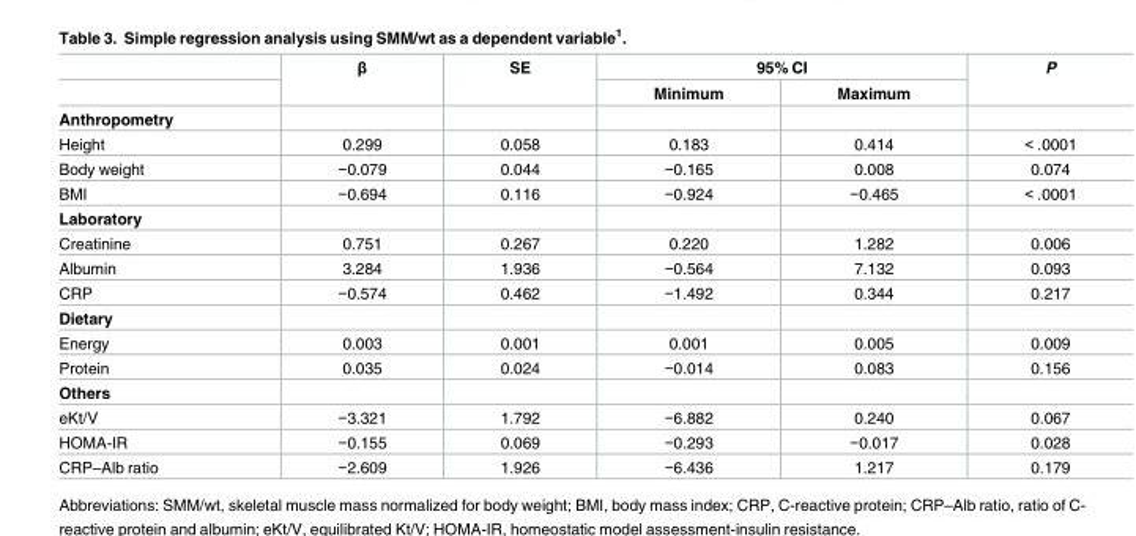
<table><thead><tr><td rowspan="2"></td><td rowspan="2">β</td><td rowspan="2">SE</td><td colspan="2">95% CI</td><td rowspan="2">P</td></tr><tr><td>Minimum</td><td>Maximum</td></tr></thead><tbody><tr><td colspan="6">Anthropometry</td></tr><tr><td>Height</td><td>0.299</td><td>0.058</td><td>0.183</td><td>0.414</td><td>&lt; .0001</td></tr><tr><td>Body weight</td><td>−0.079</td><td>0.044</td><td>−0.165</td><td>0.008</td><td>0.074</td></tr><tr><td>BMI</td><td>−0.694</td><td>0.116</td><td>−0.924</td><td>−0.465</td><td>&lt; .0001</td></tr><tr><td colspan="6">Laboratory</td></tr><tr><td>Creatinine</td><td>0.751</td><td>0.267</td><td>0.220</td><td>1.282</td><td>0.006</td></tr><tr><td>Albumin</td><td>3.284</td><td>1.936</td><td>−0.564</td><td>7.132</td><td>0.093</td></tr><tr><td>CRP</td><td>−0.574</td><td>0.462</td><td>−1.492</td><td>0.344</td><td>0.217</td></tr><tr><td colspan="6">Dietary</td></tr><tr><td>Energy</td><td>0.003</td><td>0.001</td><td>0.001</td><td>0.005</td><td>0.009</td></tr><tr><td>Protein</td><td>0.035</td><td>0.024</td><td>−0.014</td><td>0.083</td><td>0.156</td></tr><tr><td colspan="6">Others</td></tr><tr><td>eKt/V</td><td>−3.321</td><td>1.792</td><td>−6.882</td><td>0.240</td><td>0.067</td></tr><tr><td>HOMA-IR</td><td>−0.155</td><td>0.069</td><td>−0.293</td><td>−0.017</td><td>0.028</td></tr><tr><td>CRP–Alb ratio</td><td>−2.609</td><td>1.926</td><td>−6.436</td><td>1.217</td><td>0.179</td></tr></tbody></table>